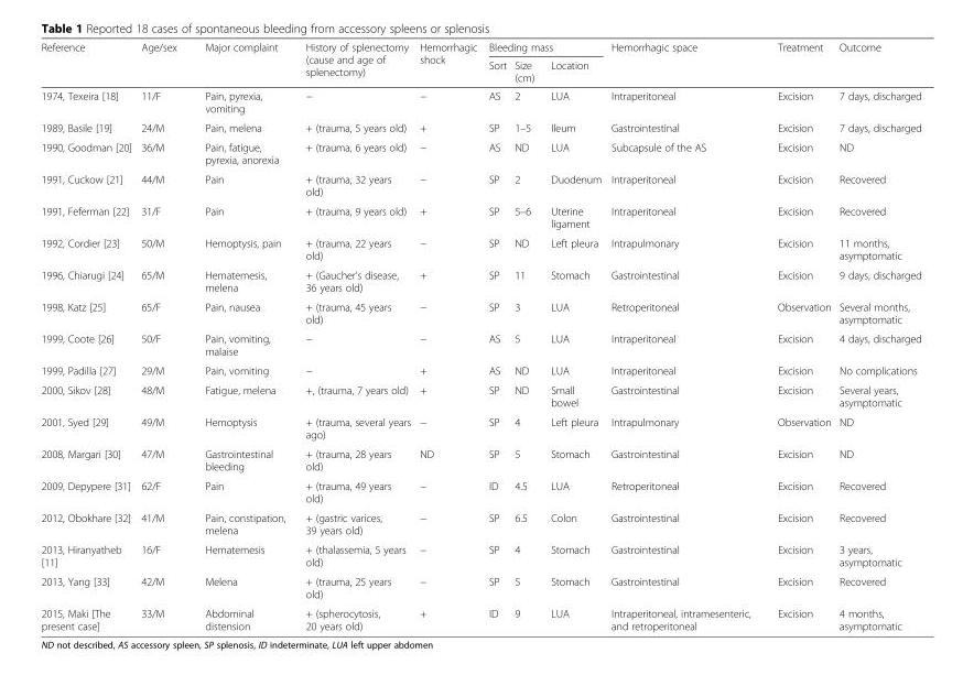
<table><thead><tr><td rowspan="2">Reference</td><td rowspan="2">Age/sex</td><td rowspan="2">Major complaint</td><td rowspan="2">History of splenectomy (cause and age of splenectomy)</td><td rowspan="2">Hemorrhagic shock</td><td colspan="3">Bleeding mass</td><td rowspan="2">Hemorrhagic space</td><td rowspan="2">Treatment</td><td rowspan="2">Outcome</td></tr><tr><td>Sort</td><td>Size (cm)</td><td>Location</td></tr></thead><tbody><tr><td>1974, Texeira [18]</td><td>11/F</td><td>Pain, pyrexia, vomiting</td><td>−</td><td>−</td><td>AS</td><td>2</td><td>LUA</td><td>Intraperitoneal</td><td>Excision</td><td>7 days, discharged</td></tr><tr><td>1989, Basile [19]</td><td>24/M</td><td>Pain, melena</td><td>+ (trauma, 5 years old)</td><td>+</td><td>SP</td><td>1–5</td><td>Ileum</td><td>Gastrointestinal</td><td>Excision</td><td>7 days, discharged</td></tr><tr><td>1990, Goodman [20]</td><td>36/M</td><td>Pain, fatigue, pyrexia, anorexia</td><td>+ (trauma, 6 years old)</td><td>−</td><td>AS</td><td>ND</td><td>LUA</td><td>Subcapsule of the AS</td><td>Excision</td><td>ND</td></tr><tr><td>1991, Cuckow [21]</td><td>44/M</td><td>Pain</td><td>+ (trauma, 32 years old)</td><td>−</td><td>SP</td><td>2</td><td>Duodenum</td><td>Intraperitoneal</td><td>Excision</td><td>Recovered</td></tr><tr><td>1991, Feferman [22]</td><td>31/F</td><td>Pain</td><td>+ (trauma, 9 years old)</td><td>+</td><td>SP</td><td>5–6</td><td>Uterine ligament</td><td>Intraperitoneal</td><td>Excision</td><td>Recovered</td></tr><tr><td>1992, Cordier [23]</td><td>50/M</td><td>Hemoptysis, pain</td><td>+ (trauma, 22 years old)</td><td>−</td><td>SP</td><td>ND</td><td>Left pleura</td><td>Intrapulmonary</td><td>Excision</td><td>11 months, asymptomatic</td></tr><tr><td>1996, Chiarugi [24]</td><td>65/M</td><td>Hematemesis, melena</td><td>+ (Gaucher’s disease, 36 years old)</td><td>+</td><td>SP</td><td>11</td><td>Stomach</td><td>Gastrointestinal</td><td>Excision</td><td>9 days, discharged</td></tr><tr><td>1998, Katz [25]</td><td>65/F</td><td>Pain, nausea</td><td>+ (trauma, 45 years old)</td><td>−</td><td>SP</td><td>3</td><td>LUA</td><td>Retroperitoneal</td><td>Observation</td><td>Several months, asymptomatic</td></tr><tr><td>1999, Coote [26]</td><td>50/F</td><td>Pain, vomiting, malaise</td><td>−</td><td>−</td><td>AS</td><td>5</td><td>LUA</td><td>Intraperitoneal</td><td>Excision</td><td>4 days, discharged</td></tr><tr><td>1999, Padilla [27]</td><td>29/M</td><td>Pain, vomiting</td><td>−</td><td>+</td><td>AS</td><td>ND</td><td>LUA</td><td>Intraperitoneal</td><td>Excision</td><td>No complications</td></tr><tr><td>2000, Sikov [28]</td><td>48/M</td><td>Fatigue, melena</td><td>+, (trauma, 7 years old)</td><td>+</td><td>SP</td><td>ND</td><td>Small bowel</td><td>Gastrointestinal</td><td>Excision</td><td>Several years, asymptomatic</td></tr><tr><td>2001, Syed [29]</td><td>49/M</td><td>Hemoptysis</td><td>+ (trauma, several years ago)</td><td>−</td><td>SP</td><td>4</td><td>Left pleura</td><td>Intrapulmonary</td><td>Observation</td><td>ND</td></tr><tr><td>2008, Margari [30]</td><td>47/M</td><td>Gastrointestinal bleeding</td><td>+ (trauma, 28 years old)</td><td>ND</td><td>SP</td><td>5</td><td>Stomach</td><td>Gastrointestinal</td><td>Excision</td><td>ND</td></tr><tr><td>2009, Depypere [31]</td><td>62/F</td><td>Pain</td><td>+ (trauma, 49 years old)</td><td>−</td><td>ID</td><td>4.5</td><td>LUA</td><td>Retroperitoneal</td><td>Excision</td><td>Recovered</td></tr><tr><td>2012, Obokhare [32]</td><td>41/M</td><td>Pain, constipation, melena</td><td>+ (gastric varices, 39 years old)</td><td>−</td><td>SP</td><td>6.5</td><td>Colon</td><td>Gastrointestinal</td><td>Excision</td><td>Recovered</td></tr><tr><td>2013, Hiranyatheb [11]</td><td>16/F</td><td>Hematemesis</td><td>+ (thalassemia, 5 years old)</td><td>−</td><td>SP</td><td>4</td><td>Stomach</td><td>Gastrointestinal</td><td>Excision</td><td>3 years, asymptomatic</td></tr><tr><td>2013, Yang [33]</td><td>42/M</td><td>Melena</td><td>+ (trauma, 25 years old)</td><td>−</td><td>SP</td><td>5</td><td>Stomach</td><td>Gastrointestinal</td><td>Excision</td><td>Recovered</td></tr><tr><td>2015, Maki [The present case]</td><td>33/M</td><td>Abdominal distension</td><td>+ (spherocytosis, 20 years old)</td><td>+</td><td>ID</td><td>9</td><td>LUA</td><td>Intraperitoneal, intramesenteric, and retroperitoneal</td><td>Excision</td><td>4 months, asymptomatic</td></tr></tbody></table>